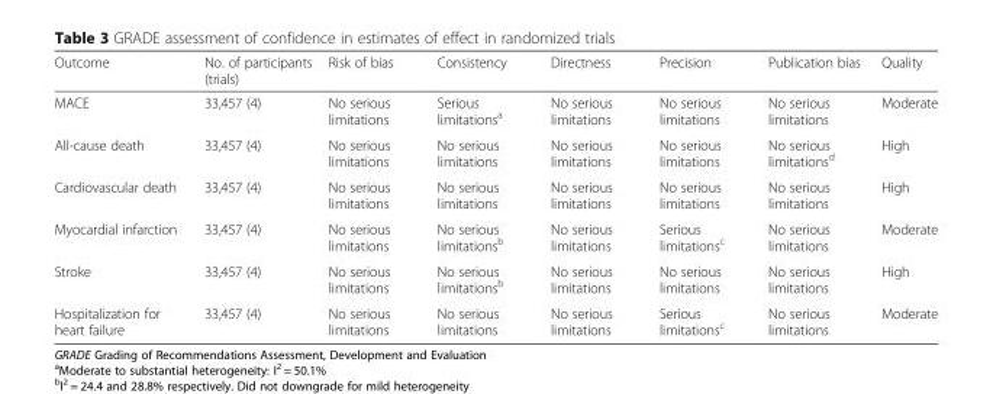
<table><thead><tr><td>Outcome</td><td>No. of participants (trials)</td><td>Risk of bias</td><td>Consistency</td><td>Directness</td><td>Precision</td><td>Publication bias</td><td>Quality</td></tr></thead><tbody><tr><td>MACE</td><td>33,457 (4)</td><td>No serious limitations</td><td>Serious limitations<sup>a</sup></td><td>No serious limitations</td><td>No serious limitations</td><td>No serious limitations</td><td>Moderate</td></tr><tr><td>All-cause death</td><td>33,457 (4)</td><td>No serious limitations</td><td>No serious limitations</td><td>No serious limitations</td><td>No serious limitations</td><td>No serious limitations<sup>d</sup></td><td>High</td></tr><tr><td>Cardiovascular death</td><td>33,457 (4)</td><td>No serious limitations</td><td>No serious limitations</td><td>No serious limitations</td><td>No serious limitations</td><td>No serious limitations</td><td>High</td></tr><tr><td>Myocardial infarction</td><td>33,457 (4)</td><td>No serious limitations</td><td>No serious limitations<sup>b</sup></td><td>No serious limitations</td><td>Serious limitations<sup>c</sup></td><td>No serious limitations</td><td>Moderate</td></tr><tr><td>Stroke</td><td>33,457 (4)</td><td>No serious limitations</td><td>No serious limitations<sup>b</sup></td><td>No serious limitations</td><td>No serious limitations</td><td>No serious limitations</td><td>High</td></tr><tr><td>Hospitalization for heart failure</td><td>33,457 (4)</td><td>No serious limitations</td><td>No serious limitations</td><td>No serious limitations</td><td>Serious limitations<sup>c</sup></td><td>No serious limitations</td><td>Moderate</td></tr></tbody></table>